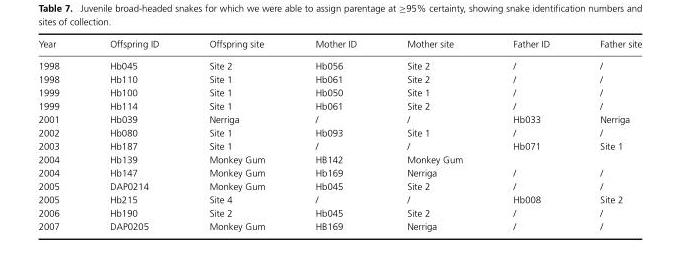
<table><thead><tr><td>Year</td><td>Offspring ID</td><td>Offspring site</td><td>Mother ID</td><td>Mother site</td><td>Father ID</td><td>Father site</td></tr></thead><tbody><tr><td>1998</td><td>Hb045</td><td>Site 2</td><td>Hb056</td><td>Site 2</td><td>/</td><td>/</td></tr><tr><td>1998</td><td>Hb110</td><td>Site 1</td><td>Hb061</td><td>Site 2</td><td>/</td><td>/</td></tr><tr><td>1999</td><td>Hb100</td><td>Site 1</td><td>Hb050</td><td>Site 1</td><td>/</td><td>/</td></tr><tr><td>1999</td><td>Hb114</td><td>Site 1</td><td>Hb061</td><td>Site 2</td><td>/</td><td>/</td></tr><tr><td>2001</td><td>Hb039</td><td>Nerriga</td><td>/</td><td>/</td><td>Hb033</td><td>Nerriga</td></tr><tr><td>2002</td><td>Hb080</td><td>Site 1</td><td>Hb093</td><td>Site 1</td><td>/</td><td>/</td></tr><tr><td>2003</td><td>Hb187</td><td>Site 1</td><td>/</td><td>/</td><td>Hb071</td><td>Site 1</td></tr><tr><td>2004</td><td>Hb139</td><td>Monkey Gum</td><td>HB142</td><td>Monkey Gum</td><td></td><td></td></tr><tr><td>2004</td><td>Hb147</td><td>Monkey Gum</td><td>Hb169</td><td>Nerriga</td><td>/</td><td>/</td></tr><tr><td>2005</td><td>DAP0214</td><td>Monkey Gum</td><td>Hb045</td><td>Site 2</td><td>/</td><td>/</td></tr><tr><td>2005</td><td>Hb215</td><td>Site 4</td><td>/</td><td>/</td><td>Hb008</td><td>Site 2</td></tr><tr><td>2006</td><td>Hb190</td><td>Site 2</td><td>Hb045</td><td>Site 2</td><td>/</td><td>/</td></tr><tr><td>2007</td><td>DAP0205</td><td>Monkey Gum</td><td>HB169</td><td>Nerriga</td><td>/</td><td>/</td></tr></tbody></table>